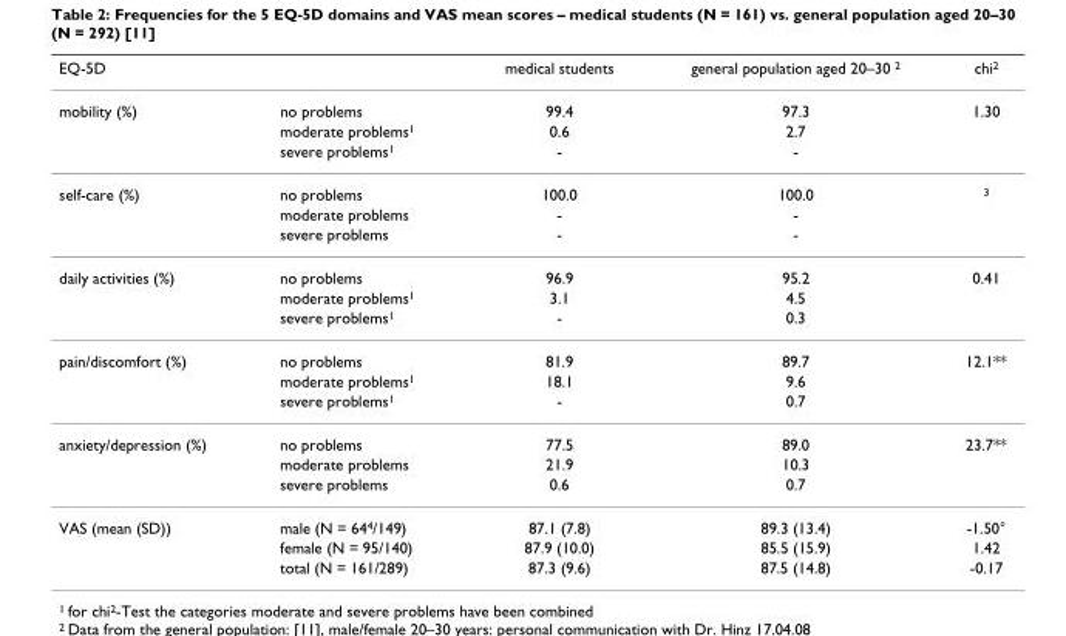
<table><thead><tr><td>EQ-5D</td><td></td><td>medical students</td><td>general population aged 20–30 <sup>2</sup></td><td>chi<sup>2</sup></td></tr></thead><tbody><tr><td rowspan="3">mobility (%)</td><td>no problems</td><td>99.4</td><td>97.3</td><td>1.30</td></tr><tr><td>moderate problems<sup>1</sup></td><td>0.6</td><td>2.7</td><td></td></tr><tr><td>severe problems<sup>1</sup></td><td>-</td><td>-</td><td></td></tr><tr><td rowspan="3">self-care (%)</td><td>no problems</td><td>100.0</td><td>100.0</td><td><sup>3</sup></td></tr><tr><td>moderate problems</td><td>-</td><td>-</td><td></td></tr><tr><td>severe problems</td><td>-</td><td>-</td><td></td></tr><tr><td rowspan="3">daily activities (%)</td><td>no problems</td><td>96.9</td><td>95.2</td><td>0.41</td></tr><tr><td>moderate problems<sup>1</sup></td><td>3.1</td><td>4.5</td><td></td></tr><tr><td>severe problems<sup>1</sup></td><td>-</td><td>0.3</td><td></td></tr><tr><td rowspan="3">pain/discomfort (%)</td><td>no problems</td><td>81.9</td><td>89.7</td><td>12.1**</td></tr><tr><td>moderate problems<sup>1</sup></td><td>18.1</td><td>9.6</td><td></td></tr><tr><td>severe problems<sup>1</sup></td><td>-</td><td>0.7</td><td></td></tr><tr><td rowspan="3">anxiety/depression (%)</td><td>no problems</td><td>77.5</td><td>89.0</td><td>23.7**</td></tr><tr><td>moderate problems</td><td>21.9</td><td>10.3</td><td></td></tr><tr><td>severe problems</td><td>0.6</td><td>0.7</td><td></td></tr><tr><td rowspan="3">VAS (mean (SD))</td><td>male (N = 64<sup>4</sup>/149)</td><td>87.1 (7.8)</td><td>89.3 (13.4)</td><td>-1.50°</td></tr><tr><td>female (N = 95/140)</td><td>87.9 (10.0)</td><td>85.5 (15.9)</td><td>1.42</td></tr><tr><td>total (N = 161/289)</td><td>87.3 (9.6)</td><td>87.5 (14.8)</td><td>-0.17</td></tr></tbody></table>